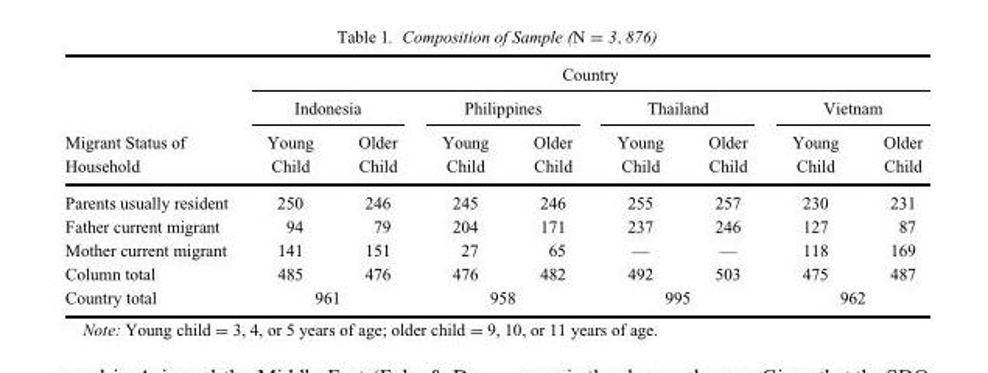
<table><thead><tr><td rowspan="3">Migrant Status of Household</td><td colspan="8">Country</td></tr><tr><td colspan="2">Indonesia</td><td colspan="2">Philippines</td><td colspan="2">Thailand</td><td colspan="2">Vietnam</td></tr><tr><td>Young Child</td><td>Older Child</td><td>Young Child</td><td>Older Child</td><td>Young Child</td><td>Older Child</td><td>Young Child</td><td>Older Child</td></tr></thead><tbody><tr><td>Parents usually resident</td><td>250</td><td>246</td><td>245</td><td>246</td><td>255</td><td>257</td><td>230</td><td>231</td></tr><tr><td>Father current migrant</td><td>94</td><td>79</td><td>204</td><td>171</td><td>237</td><td>246</td><td>127</td><td>87</td></tr><tr><td>Mother current migrant</td><td>141</td><td>151</td><td>27</td><td>65</td><td>—</td><td>—</td><td>118</td><td>169</td></tr><tr><td>Column total</td><td>485</td><td>476</td><td>476</td><td>482</td><td>492</td><td>503</td><td>475</td><td>487</td></tr><tr><td>Country total</td><td colspan="2">961</td><td colspan="2">958</td><td colspan="2">995</td><td colspan="2">962</td></tr></tbody></table>